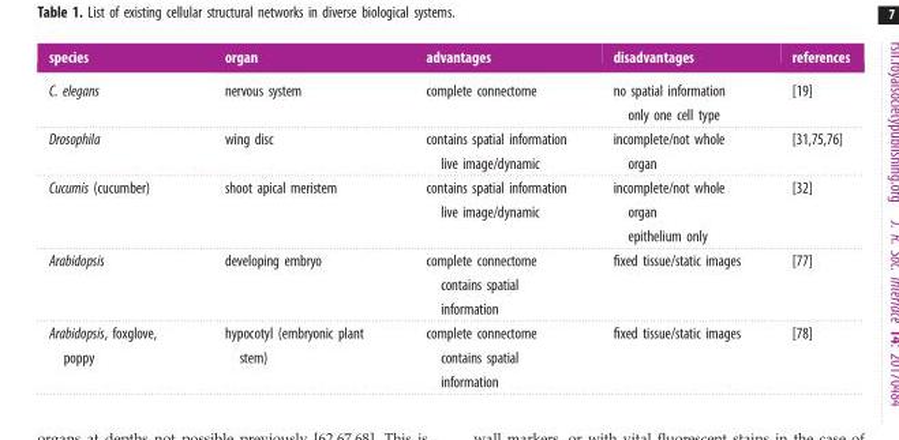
<table><thead><tr><td>species</td><td>organ</td><td>advantages</td><td>disadvantages</td><td>references</td></tr></thead><tbody><tr><td>C. elegans</td><td>nervous system</td><td>complete connectome</td><td>no spatial information only one cell type</td><td>[19]</td></tr><tr><td>Drosophila</td><td>wing disc</td><td>contains spatial information live image/dynamic</td><td>incomplete/not whole organ</td><td>[31,75,76]</td></tr><tr><td>Cucumis (cucumber)</td><td>shoot apical meristem</td><td>contains spatial information live image/dynamic</td><td>incomplete/not whole organ epithelium only</td><td>[32]</td></tr><tr><td>Arabidopsis</td><td>developing embryo</td><td>complete connectome contains spatial information</td><td>fixed tissue/static images</td><td>[77]</td></tr><tr><td>Arabidopsis, foxglove, poppy</td><td>hypocotyl (embryonic plant stem)</td><td>complete connectome contains spatial information</td><td>fixed tissue/static images</td><td>[78]</td></tr></tbody></table>